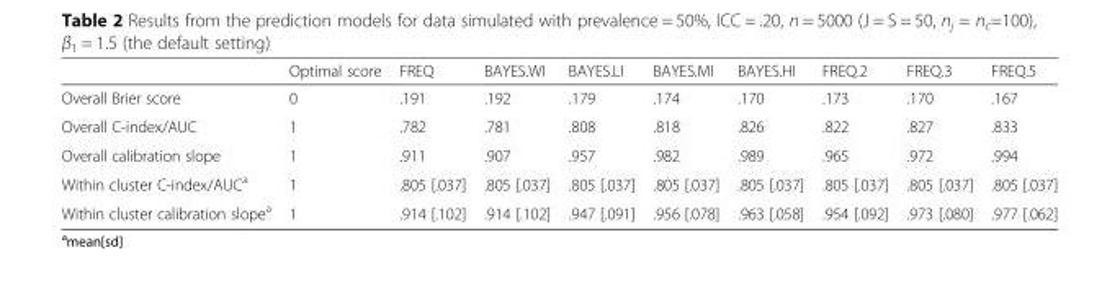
<table><thead><tr><td></td><td>Optimal score</td><td>FREQ</td><td>BAYES.WI</td><td>BAYES.LI</td><td>BAYES.MI</td><td>BAYES.HI</td><td>FREQ.2</td><td>FREQ.3</td><td>FREQ.5</td></tr></thead><tbody><tr><td>Overall Brier score</td><td>0</td><td>.191</td><td>.192</td><td>.179</td><td>.174</td><td>.170</td><td>.173</td><td>.170</td><td>.167</td></tr><tr><td>Overall C-index/AUC</td><td>1</td><td>.782</td><td>.781</td><td>.808</td><td>.818</td><td>.826</td><td>.822</td><td>.827</td><td>.833</td></tr><tr><td>Overall calibration slope</td><td>1</td><td>.911</td><td>.907</td><td>.957</td><td>.982</td><td>.989</td><td>.965</td><td>.972</td><td>.994</td></tr><tr><td>Within cluster C-index/AUC<sup>a</sup></td><td>1</td><td>.805 [.037]</td><td>.805 [.037]</td><td>.805 [.037]</td><td>.805 [.037]</td><td>.805 [.037]</td><td>.805 [.037]</td><td>.805 [.037]</td><td>.805 [.037]</td></tr><tr><td>Within cluster calibration slope<sup>a</sup></td><td>1</td><td>.914 [.102]</td><td>.914 [.102]</td><td>.947 [.091]</td><td>.956 [.078]</td><td>.963 [.058]</td><td>.954 [.092]</td><td>.973 [.080]</td><td>.977 [.062]</td></tr></tbody></table>